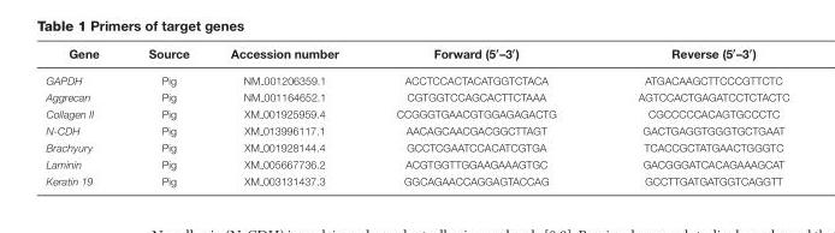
<table><thead><tr><td>Gene</td><td>Source</td><td>Accession number</td><td>Forward (5′–3′)</td><td>Reverse (5′–3′)</td></tr></thead><tbody><tr><td>GAPDH</td><td>Pig</td><td>NM 001206359.1</td><td>ACCTCCACTACATGGTCTACA</td><td>ATGACAAGCTTCCCGTTCTC</td></tr><tr><td>Aggrecan</td><td>Pig</td><td>NM 001164652.1</td><td>CGTGGTCCAGCACTTCTAAA</td><td>AGTCCACTGAGATCCTCTACTC</td></tr><tr><td>Collagen II</td><td>Pig</td><td>XM 001925959.4</td><td>CCGGGTGAACGTGGAGAGACTG</td><td>CGCCCCCACAGTGCCCTC</td></tr><tr><td>N-CDH</td><td>Pig</td><td>XM 013996117.1</td><td>AACAGCAACGACGGCTTAGT</td><td>GACTGAGGTGGGTGCTGAAT</td></tr><tr><td>Brachyury</td><td>Pig</td><td>XM 001928144.4</td><td>GCCTCGAATCCACATCGTGA</td><td>TCACCGCTATGAACTGGGTC</td></tr><tr><td>Laminin</td><td>Pig</td><td>XM 005667736.2</td><td>ACGTGGTTGGAAGAAAGTGC</td><td>GACGGGATCACAGAAAGCAT</td></tr><tr><td>Keratin 19</td><td>Pig</td><td>XM 003131437.3</td><td>GGCAGAACCAGGAGTACCAG</td><td>GCCTTGATGATGGTCAGGTT</td></tr></tbody></table>